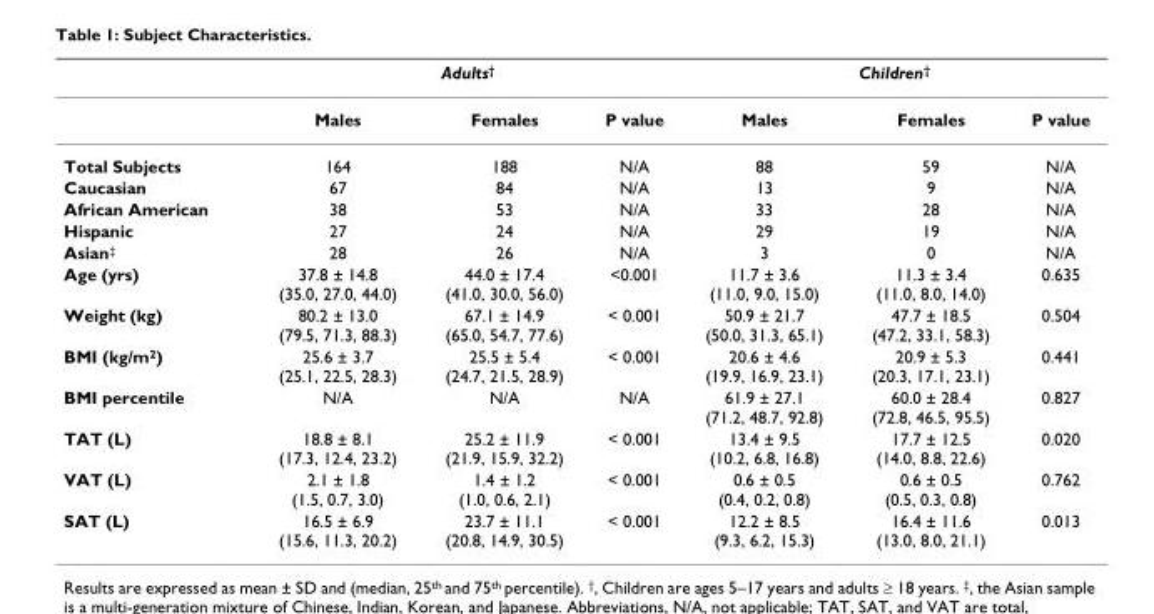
<table><thead><tr><td rowspan="2"></td><td colspan="3">Adults<sup>†</sup></td><td colspan="3">Children<sup>†</sup></td></tr><tr><td>Males</td><td>Females</td><td>P value</td><td>Males</td><td>Females</td><td>P value</td></tr></thead><tbody><tr><td>Total Subjects</td><td>164</td><td>188</td><td>N/A</td><td>88</td><td>59</td><td>N/A</td></tr><tr><td>Caucasian</td><td>67</td><td>84</td><td>N/A</td><td>13</td><td>9</td><td>N/A</td></tr><tr><td>African American</td><td>38</td><td>53</td><td>N/A</td><td>33</td><td>28</td><td>N/A</td></tr><tr><td>Hispanic</td><td>27</td><td>24</td><td>N/A</td><td>29</td><td>19</td><td>N/A</td></tr><tr><td>Asian<sup>‡</sup></td><td>28</td><td>26</td><td>N/A</td><td>3</td><td>0</td><td>N/A</td></tr><tr><td>Age (yrs)</td><td>37.8 ± 14.8 (35.0, 27.0, 44.0)</td><td>44.0 ± 17.4 (41.0, 30.0, 56.0)</td><td>&lt;0.001</td><td>11.7 ± 3.6 (11.0, 9.0, 15.0)</td><td>11.3 ± 3.4 (11.0, 8.0, 14.0)</td><td>0.635</td></tr><tr><td>Weight (kg)</td><td>80.2 ± 13.0 (79.5, 71.3, 88.3)</td><td>67.1 ± 14.9 (65.0, 54.7, 77.6)</td><td>&lt; 0.001</td><td>50.9 ± 21.7 (50.0, 31.3, 65.1)</td><td>47.7 ± 18.5 (47.2, 33.1, 58.3)</td><td>0.504</td></tr><tr><td>BMI (kg/m<sup>2</sup>)</td><td>25.6 ± 3.7 (25.1, 22.5, 28.3)</td><td>25.5 ± 5.4 (24.7, 21.5, 28.9)</td><td>&lt; 0.001</td><td>20.6 ± 4.6 (19.9, 16.9, 23.1)</td><td>20.9 ± 5.3 (20.3, 17.1, 23.1)</td><td>0.441</td></tr><tr><td>BMI percentile</td><td>N/A</td><td>N/A</td><td>N/A</td><td>61.9 ± 27.1 (71.2, 48.7, 92.8)</td><td>60.0 ± 28.4 (72.8, 46.5, 95.5)</td><td>0.827</td></tr><tr><td>TAT (L)</td><td>18.8 ± 8.1 (17.3, 12.4, 23.2)</td><td>25.2 ± 11.9 (21.9, 15.9, 32.2)</td><td>&lt; 0.001</td><td>13.4 ± 9.5 (10.2, 6.8, 16.8)</td><td>17.7 ± 12.5 (14.0, 8.8, 22.6)</td><td>0.020</td></tr><tr><td>VAT (L)</td><td>2.1 ± 1.8 (1.5, 0.7, 3.0)</td><td>1.4 ± 1.2 (1.0, 0.6, 2.1)</td><td>&lt; 0.001</td><td>0.6 ± 0.5 (0.4, 0.2, 0.8)</td><td>0.6 ± 0.5 (0.5, 0.3, 0.8)</td><td>0.762</td></tr><tr><td>SAT (L)</td><td>16.5 ± 6.9 (15.6, 11.3, 20.2)</td><td>23.7 ± 11.1 (20.8, 14.9, 30.5)</td><td>&lt; 0.001</td><td>12.2 ± 8.5 (9.3, 6.2, 15.3)</td><td>16.4 ± 11.6 (13.0, 8.0, 21.1)</td><td>0.013</td></tr></tbody></table>